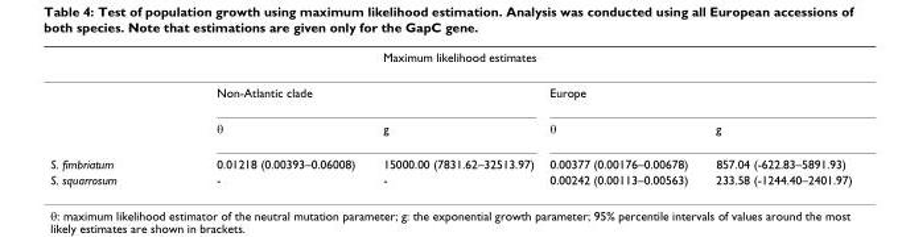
<table><thead><tr><td colspan="5">Maximum likelihood estimates</td></tr><tr><td rowspan="2"></td><td colspan="2">Non-Atlantic clade</td><td colspan="2">Europe</td></tr><tr><td>θ</td><td>g</td><td>θ</td><td>g</td></tr></thead><tbody><tr><td>S. fimbriatum</td><td>0.01218 (0.00393–0.06008)</td><td>15000.00 (7831.62–32513.97)</td><td>0.00377 (0.00176–0.00678)</td><td>857.04 (-622.83–5891.93)</td></tr><tr><td>S. squarrosum</td><td>-</td><td>-</td><td>0.00242 (0.00113–0.00563)</td><td>233.58 (-1244.40–2401.97)</td></tr></tbody></table>